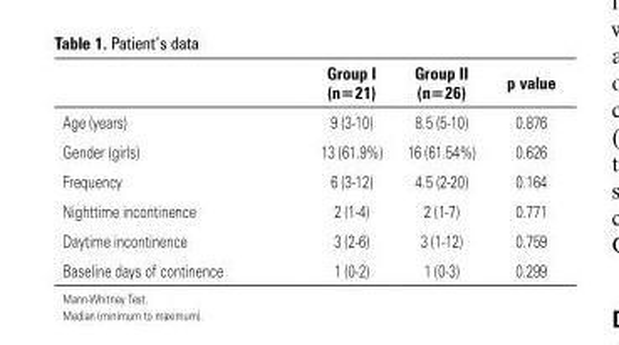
<table><thead><tr><td></td><td>Group I (n=21)</td><td>Group II (n=26)</td><td>p value</td></tr></thead><tbody><tr><td>Age (years)</td><td>9 (3-10)</td><td>8.5 (5-10)</td><td>0.876</td></tr><tr><td>Gender (girls)</td><td>13 (61.9%)</td><td>16 (61.54%)</td><td>0.626</td></tr><tr><td>Frequency</td><td>6 (3-12)</td><td>4.5 (2-20)</td><td>0.164</td></tr><tr><td>Nighttime incontinence</td><td>2 (1-4)</td><td>2 (1-7)</td><td>0.771</td></tr><tr><td>Daytime incontinence</td><td>3 (2-6)</td><td>3 (1-12)</td><td>0.759</td></tr><tr><td>Baseline days of continence</td><td>1 (0-2)</td><td>1 (0-3)</td><td>0.299</td></tr></tbody></table>